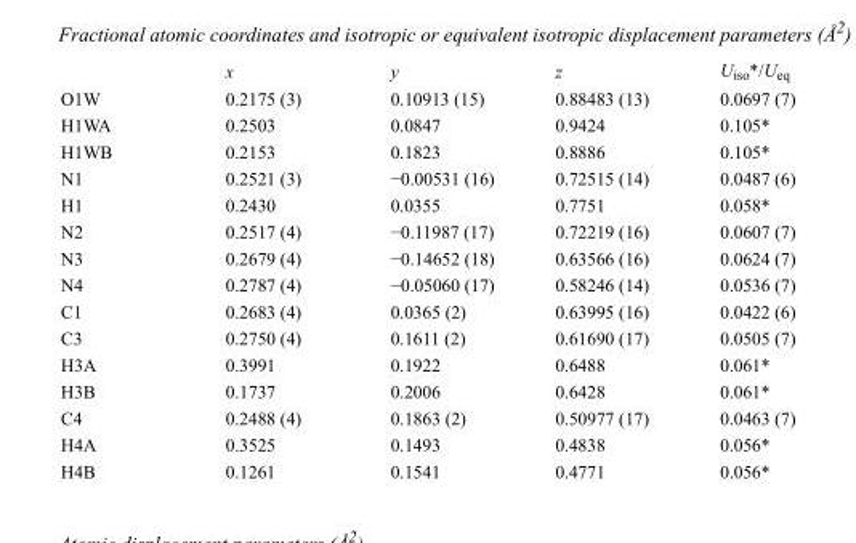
<table><thead><tr><td></td><td>x</td><td>y</td><td>z</td><td>U<sub>iso</sub>*/U<sub>eq</sub></td></tr></thead><tbody><tr><td>O1W</td><td>0.2175 (3)</td><td>0.10913 (15)</td><td>0.88483 (13)</td><td>0.0697 (7)</td></tr><tr><td>H1WA</td><td>0.2503</td><td>0.0847</td><td>0.9424</td><td>0.105*</td></tr><tr><td>H1WB</td><td>0.2153</td><td>0.1823</td><td>0.8886</td><td>0.105*</td></tr><tr><td>N1</td><td>0.2521 (3)</td><td>−0.00531 (16)</td><td>0.72515 (14)</td><td>0.0487 (6)</td></tr><tr><td>H1</td><td>0.2430</td><td>0.0355</td><td>0.7751</td><td>0.058*</td></tr><tr><td>N2</td><td>0.2517 (4)</td><td>−0.11987 (17)</td><td>0.72219 (16)</td><td>0.0607 (7)</td></tr><tr><td>N3</td><td>0.2679 (4)</td><td>−0.14652 (18)</td><td>0.63566 (16)</td><td>0.0624 (7)</td></tr><tr><td>N4</td><td>0.2787 (4)</td><td>−0.05060 (17)</td><td>0.58246 (14)</td><td>0.0536 (7)</td></tr><tr><td>C1</td><td>0.2683 (4)</td><td>0.0365 (2)</td><td>0.63995 (16)</td><td>0.0422 (6)</td></tr><tr><td>C3</td><td>0.2750 (4)</td><td>0.1611 (2)</td><td>0.61690 (17)</td><td>0.0505 (7)</td></tr><tr><td>H3A</td><td>0.3991</td><td>0.1922</td><td>0.6488</td><td>0.061*</td></tr><tr><td>H3B</td><td>0.1737</td><td>0.2006</td><td>0.6428</td><td>0.061*</td></tr><tr><td>C4</td><td>0.2488 (4)</td><td>0.1863 (2)</td><td>0.50977 (17)</td><td>0.0463 (7)</td></tr><tr><td>H4A</td><td>0.3525</td><td>0.1493</td><td>0.4838</td><td>0.056*</td></tr><tr><td>H4B</td><td>0.1261</td><td>0.1541</td><td>0.4771</td><td>0.056*</td></tr></tbody></table>